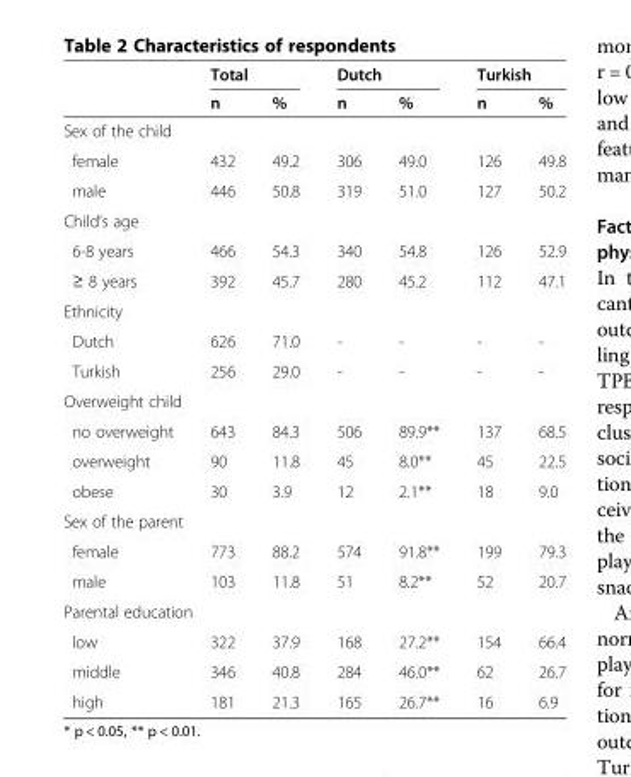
<table><thead><tr><td rowspan="2"></td><td colspan="2">Total</td><td colspan="2">Dutch</td><td colspan="2">Turkish</td></tr><tr><td>n</td><td>%</td><td>n</td><td>%</td><td>n</td><td>%</td></tr></thead><tbody><tr><td colspan="7">Sex of the child</td></tr><tr><td>female</td><td>432</td><td>49.2</td><td>306</td><td>49.0</td><td>126</td><td>49.8</td></tr><tr><td>male</td><td>446</td><td>50.8</td><td>319</td><td>51.0</td><td>127</td><td>50.2</td></tr><tr><td colspan="7">Child’s age</td></tr><tr><td>6-8 years</td><td>466</td><td>54.3</td><td>340</td><td>54.8</td><td>126</td><td>52.9</td></tr><tr><td>≥ 8 years</td><td>392</td><td>45.7</td><td>280</td><td>45.2</td><td>112</td><td>47.1</td></tr><tr><td colspan="7">Ethnicity</td></tr><tr><td>Dutch</td><td>626</td><td>71.0</td><td>-</td><td>-</td><td>-</td><td>-</td></tr><tr><td>Turkish</td><td>256</td><td>29.0</td><td>-</td><td>-</td><td>-</td><td>-</td></tr><tr><td colspan="7">Overweight child</td></tr><tr><td>no overweight</td><td>643</td><td>84.3</td><td>506</td><td>89.9**</td><td>137</td><td>68.5</td></tr><tr><td>overweight</td><td>90</td><td>11.8</td><td>45</td><td>8.0**</td><td>45</td><td>22.5</td></tr><tr><td>obese</td><td>30</td><td>3.9</td><td>12</td><td>2.1**</td><td>18</td><td>9.0</td></tr><tr><td colspan="7">Sex of the parent</td></tr><tr><td>female</td><td>773</td><td>88.2</td><td>574</td><td>91.8**</td><td>199</td><td>79.3</td></tr><tr><td>male</td><td>103</td><td>11.8</td><td>51</td><td>8.2**</td><td>52</td><td>20.7</td></tr><tr><td colspan="7">Parental education</td></tr><tr><td>low</td><td>322</td><td>37.9</td><td>168</td><td>27.2**</td><td>154</td><td>66.4</td></tr><tr><td>middle</td><td>346</td><td>40.8</td><td>284</td><td>46.0**</td><td>62</td><td>26.7</td></tr><tr><td>high</td><td>181</td><td>21.3</td><td>165</td><td>26.7**</td><td>16</td><td>6.9</td></tr></tbody></table>